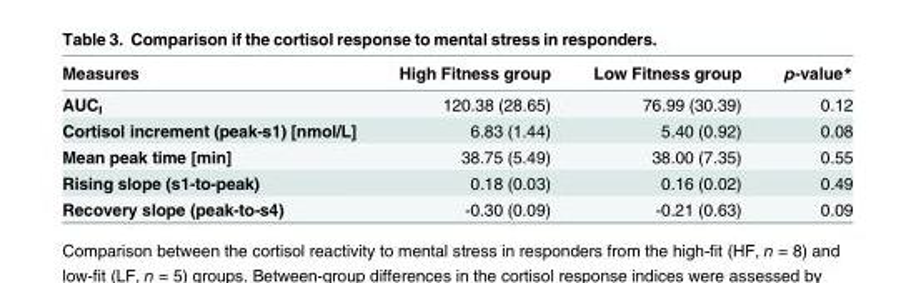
<table><thead><tr><td>Measures</td><td>High Fitness group</td><td>Low Fitness group</td><td>p-value*</td></tr></thead><tbody><tr><td>AUC<sub>I</sub></td><td>120.38 (28.65)</td><td>76.99 (30.39)</td><td>0.12</td></tr><tr><td>Cortisol increment (peak-s1) [nmol/L]</td><td>6.83 (1.44)</td><td>5.40 (0.92)</td><td>0.08</td></tr><tr><td>Mean peak time [min]</td><td>38.75 (5.49)</td><td>38.00 (7.35)</td><td>0.55</td></tr><tr><td>Rising slope (s1-to-peak)</td><td>0.18 (0.03)</td><td>0.16 (0.02)</td><td>0.49</td></tr><tr><td>Recovery slope (peak-to-s4)</td><td>-0.30 (0.09)</td><td>-0.21 (0.63)</td><td>0.09</td></tr></tbody></table>